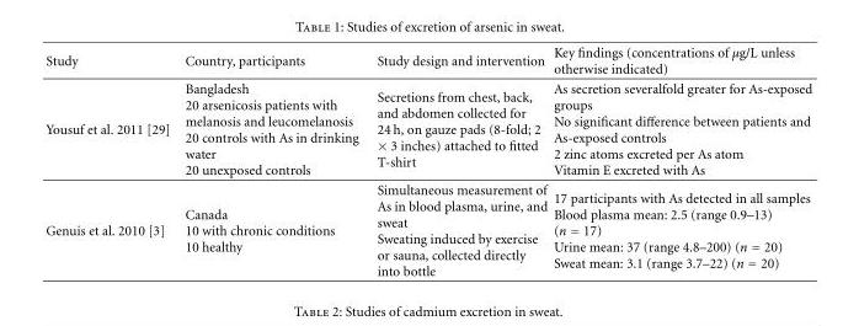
<table><thead><tr><td>Study</td><td>Country, participants</td><td>Study design and intervention</td><td>Key findings (concentrations of µg/L unless otherwise indicated)</td></tr></thead><tbody><tr><td>Yousuf et al. 2011 [29]</td><td>Bangladesh 20 arsenicosis patients with melanosis and leucomelanosis 20 controls with As in drinking water 20 unexposed controls</td><td>Secretions from chest, back, and abdomen collected for 24 h, on gauze pads (8-fold; 2 × 3 inches) attached to fitted T-shirt</td><td>As secretion severalfold greater for As-exposed groups No significant difference between patients and As-exposed controls 2 zinc atoms excreted per As atom Vitamin E excreted with As</td></tr><tr><td>Genuis et al. 2010 [3]</td><td>Canada 10 with chronic conditions 10 healthy</td><td>Simultaneous measurement of As in blood plasma, urine, and sweat Sweating induced by exercise or sauna, collected directly into bottle</td><td>17 participants with As detected in all samples Blood plasma mean: 2.5 (range 0.9–13) (n = 17) Urine mean: 37 (range 4.8–200) (n = 20) Sweat mean: 3.1 (range 3.7–22) (n = 20)</td></tr></tbody></table>